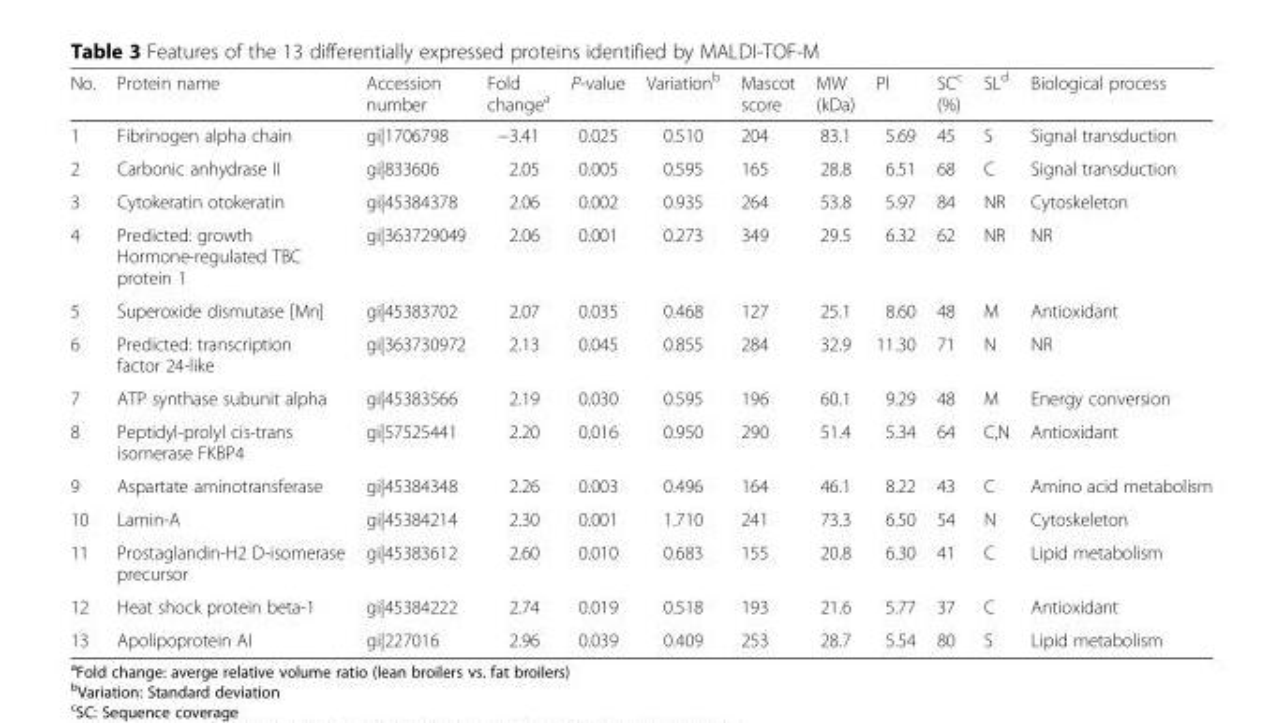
<table><thead><tr><td>No.</td><td>Protein name</td><td>Accession number</td><td>Fold change<sup>a</sup></td><td>P-value</td><td>Variation<sup>b</sup></td><td>Mascot score</td><td>MW (kDa)</td><td>PI</td><td>SC<sup>c</sup> (%)</td><td>SL<sup>d</sup></td><td>Biological process</td></tr></thead><tbody><tr><td>1</td><td>Fibrinogen alpha chain</td><td>gi|1706798</td><td>−3.41</td><td>0.025</td><td>0.510</td><td>204</td><td>83.1</td><td>5.69</td><td>45</td><td>S</td><td>Signal transduction</td></tr><tr><td>2</td><td>Carbonic anhydrase II</td><td>gi|833606</td><td>2.05</td><td>0.005</td><td>0.595</td><td>165</td><td>28.8</td><td>6.51</td><td>68</td><td>C</td><td>Signal transduction</td></tr><tr><td>3</td><td>Cytokeratin otokeratin</td><td>gi|45384378</td><td>2.06</td><td>0.002</td><td>0.935</td><td>264</td><td>53.8</td><td>5.97</td><td>84</td><td>NR</td><td>Cytoskeleton</td></tr><tr><td>4</td><td>Predicted: growth Hormone-regulated TBC protein 1</td><td>gi|363729049</td><td>2.06</td><td>0.001</td><td>0.273</td><td>349</td><td>29.5</td><td>6.32</td><td>62</td><td>NR</td><td>NR</td></tr><tr><td>5</td><td>Superoxide dismutase [Mn]</td><td>gi|45383702</td><td>2.07</td><td>0.035</td><td>0.468</td><td>127</td><td>25.1</td><td>8.60</td><td>48</td><td>M</td><td>Antioxidant</td></tr><tr><td>6</td><td>Predicted: transcription factor 24-like</td><td>gi|363730972</td><td>2.13</td><td>0.045</td><td>0.855</td><td>284</td><td>32.9</td><td>11.30</td><td>71</td><td>N</td><td>NR</td></tr><tr><td>7</td><td>ATP synthase subunit alpha</td><td>gi|45383566</td><td>2.19</td><td>0.030</td><td>0.595</td><td>196</td><td>60.1</td><td>9.29</td><td>48</td><td>M</td><td>Energy conversion</td></tr><tr><td>8</td><td>Peptidyl-prolyl cis-trans isomerase FKBP4</td><td>gi|57525441</td><td>2.20</td><td>0.016</td><td>0.950</td><td>290</td><td>51.4</td><td>5.34</td><td>64</td><td>C,N</td><td>Antioxidant</td></tr><tr><td>9</td><td>Aspartate aminotransferase</td><td>gi|45384348</td><td>2.26</td><td>0.003</td><td>0.496</td><td>164</td><td>46.1</td><td>8.22</td><td>43</td><td>C</td><td>Amino acid metabolism</td></tr><tr><td>10</td><td>Lamin-A</td><td>gi|45384214</td><td>2.30</td><td>0.001</td><td>1.710</td><td>241</td><td>73.3</td><td>6.50</td><td>54</td><td>N</td><td>Cytoskeleton</td></tr><tr><td>11</td><td>Prostaglandin-H2 D-isomerase precursor</td><td>gi|45383612</td><td>2.60</td><td>0.010</td><td>0.683</td><td>155</td><td>20.8</td><td>6.30</td><td>41</td><td>C</td><td>Lipid metabolism</td></tr><tr><td>12</td><td>Heat shock protein beta-1</td><td>gi|45384222</td><td>2.74</td><td>0.019</td><td>0.518</td><td>193</td><td>21.6</td><td>5.77</td><td>37</td><td>C</td><td>Antioxidant</td></tr><tr><td>13</td><td>Apolipoprotein AI</td><td>gi|227016</td><td>2.96</td><td>0.039</td><td>0.409</td><td>253</td><td>28.7</td><td>5.54</td><td>80</td><td>S</td><td>Lipid metabolism</td></tr></tbody></table>